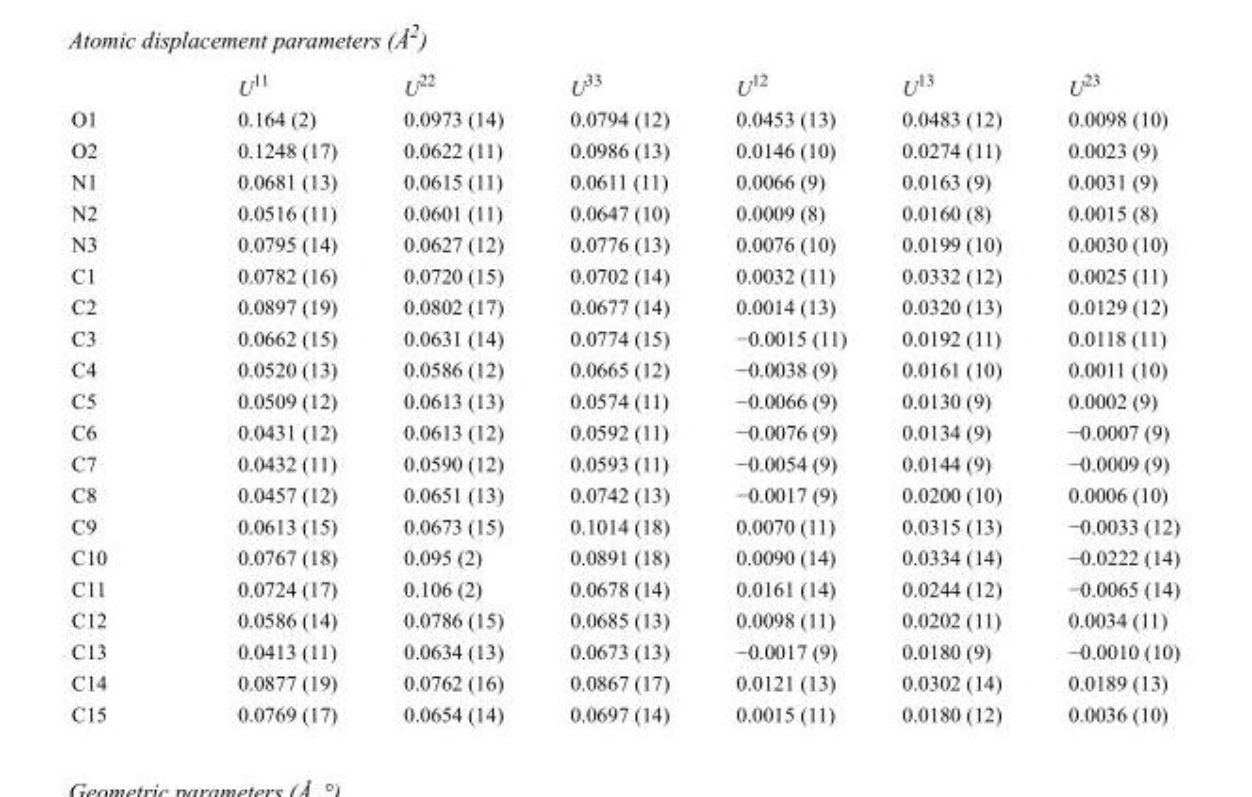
<table><thead><tr><td></td><td>U<sup>11</sup></td><td>U<sup>22</sup></td><td>U<sup>33</sup></td><td>U<sup>12</sup></td><td>U<sup>13</sup></td><td>U<sup>23</sup></td></tr></thead><tbody><tr><td>O1</td><td>0.164 (2)</td><td>0.0973 (14)</td><td>0.0794 (12)</td><td>0.0453 (13)</td><td>0.0483 (12)</td><td>0.0098 (10)</td></tr><tr><td>O2</td><td>0.1248 (17)</td><td>0.0622 (11)</td><td>0.0986 (13)</td><td>0.0146 (10)</td><td>0.0274 (11)</td><td>0.0023 (9)</td></tr><tr><td>N1</td><td>0.0681 (13)</td><td>0.0615 (11)</td><td>0.0611 (11)</td><td>0.0066 (9)</td><td>0.0163 (9)</td><td>0.0031 (9)</td></tr><tr><td>N2</td><td>0.0516 (11)</td><td>0.0601 (11)</td><td>0.0647 (10)</td><td>0.0009 (8)</td><td>0.0160 (8)</td><td>0.0015 (8)</td></tr><tr><td>N3</td><td>0.0795 (14)</td><td>0.0627 (12)</td><td>0.0776 (13)</td><td>0.0076 (10)</td><td>0.0199 (10)</td><td>0.0030 (10)</td></tr><tr><td>C1</td><td>0.0782 (16)</td><td>0.0720 (15)</td><td>0.0702 (14)</td><td>0.0032 (11)</td><td>0.0332 (12)</td><td>0.0025 (11)</td></tr><tr><td>C2</td><td>0.0897 (19)</td><td>0.0802 (17)</td><td>0.0677 (14)</td><td>0.0014 (13)</td><td>0.0320 (13)</td><td>0.0129 (12)</td></tr><tr><td>C3</td><td>0.0662 (15)</td><td>0.0631 (14)</td><td>0.0774 (15)</td><td>−0.0015 (11)</td><td>0.0192 (11)</td><td>0.0118 (11)</td></tr><tr><td>C4</td><td>0.0520 (13)</td><td>0.0586 (12)</td><td>0.0665 (12)</td><td>−0.0038 (9)</td><td>0.0161 (10)</td><td>0.0011 (10)</td></tr><tr><td>C5</td><td>0.0509 (12)</td><td>0.0613 (13)</td><td>0.0574 (11)</td><td>−0.0066 (9)</td><td>0.0130 (9)</td><td>0.0002 (9)</td></tr><tr><td>C6</td><td>0.0431 (12)</td><td>0.0613 (12)</td><td>0.0592 (11)</td><td>−0.0076 (9)</td><td>0.0134 (9)</td><td>−0.0007 (9)</td></tr><tr><td>C7</td><td>0.0432 (11)</td><td>0.0590 (12)</td><td>0.0593 (11)</td><td>−0.0054 (9)</td><td>0.0144 (9)</td><td>−0.0009 (9)</td></tr><tr><td>C8</td><td>0.0457 (12)</td><td>0.0651 (13)</td><td>0.0742 (13)</td><td>−0.0017 (9)</td><td>0.0200 (10)</td><td>0.0006 (10)</td></tr><tr><td>C9</td><td>0.0613 (15)</td><td>0.0673 (15)</td><td>0.1014 (18)</td><td>0.0070 (11)</td><td>0.0315 (13)</td><td>−0.0033 (12)</td></tr><tr><td>C10</td><td>0.0767 (18)</td><td>0.095 (2)</td><td>0.0891 (18)</td><td>0.0090 (14)</td><td>0.0334 (14)</td><td>−0.0222 (14)</td></tr><tr><td>C11</td><td>0.0724 (17)</td><td>0.106 (2)</td><td>0.0678 (14)</td><td>0.0161 (14)</td><td>0.0244 (12)</td><td>−0.0065 (14)</td></tr><tr><td>C12</td><td>0.0586 (14)</td><td>0.0786 (15)</td><td>0.0685 (13)</td><td>0.0098 (11)</td><td>0.0202 (11)</td><td>0.0034 (11)</td></tr><tr><td>C13</td><td>0.0413 (11)</td><td>0.0634 (13)</td><td>0.0673 (13)</td><td>−0.0017 (9)</td><td>0.0180 (9)</td><td>−0.0010 (10)</td></tr><tr><td>C14</td><td>0.0877 (19)</td><td>0.0762 (16)</td><td>0.0867 (17)</td><td>0.0121 (13)</td><td>0.0302 (14)</td><td>0.0189 (13)</td></tr><tr><td>C15</td><td>0.0769 (17)</td><td>0.0654 (14)</td><td>0.0697 (14)</td><td>0.0015 (11)</td><td>0.0180 (12)</td><td>0.0036 (10)</td></tr></tbody></table>